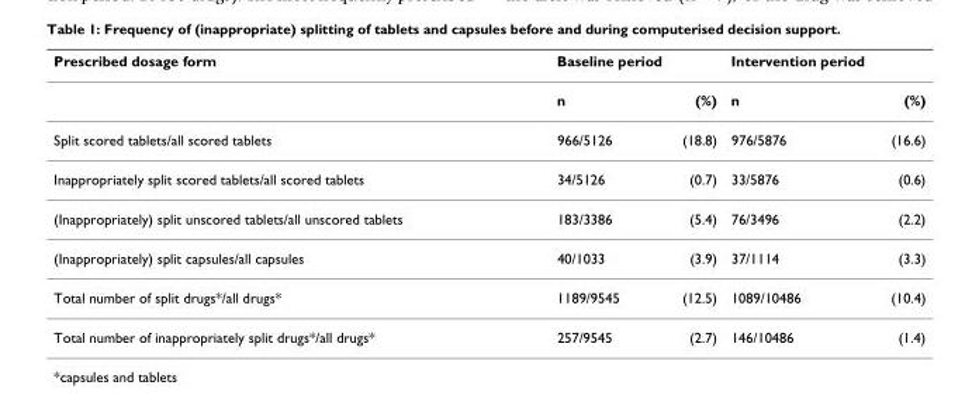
<table><thead><tr><td rowspan="2">Prescribed dosage form</td><td colspan="2">Baseline period</td><td colspan="2">Intervention period</td></tr><tr><td>n</td><td>(%)</td><td>n</td><td>(%)</td></tr></thead><tbody><tr><td>Split scored tablets/all scored tablets</td><td>966/5126</td><td>(18.8)</td><td>976/5876</td><td>(16.6)</td></tr><tr><td>Inappropriately split scored tablets/all scored tablets</td><td>34/5126</td><td>(0.7)</td><td>33/5876</td><td>(0.6)</td></tr><tr><td>(Inappropriately) split unscored tablets/all unscored tablets</td><td>183/3386</td><td>(5.4)</td><td>76/3496</td><td>(2.2)</td></tr><tr><td>(Inappropriately) split capsules/all capsules</td><td>40/1033</td><td>(3.9)</td><td>37/1114</td><td>(3.3)</td></tr><tr><td>Total number of split drugs*/all drugs*</td><td>1189/9545</td><td>(12.5)</td><td>1089/10486</td><td>(10.4)</td></tr><tr><td>Total number of inappropriately split drugs*/all drugs*</td><td>257/9545</td><td>(2.7)</td><td>146/10486</td><td>(1.4)</td></tr></tbody></table>